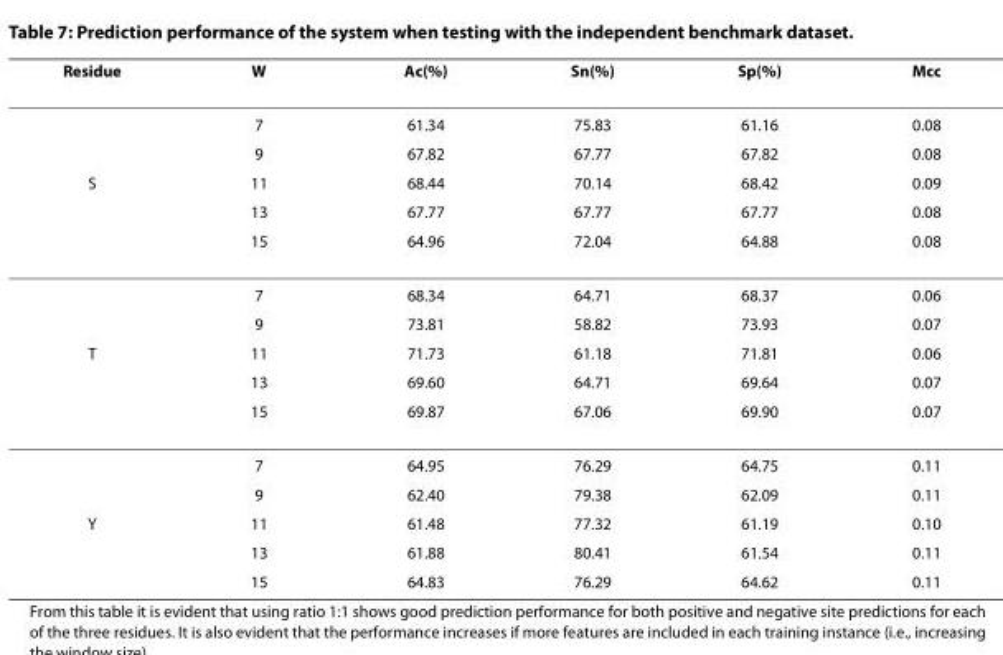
<table><thead><tr><td>Residue</td><td>W</td><td>Ac(%)</td><td>Sn(%)</td><td>Sp(%)</td><td>Mcc</td></tr></thead><tbody><tr><td></td><td>7</td><td>61.34</td><td>75.83</td><td>61.16</td><td>0.08</td></tr><tr><td></td><td>9</td><td>67.82</td><td>67.77</td><td>67.82</td><td>0.08</td></tr><tr><td rowspan="5">S</td><td>11</td><td>68.44</td><td>70.14</td><td>68.42</td><td>0.09</td></tr><tr><td>13</td><td>67.77</td><td>67.77</td><td>67.77</td><td>0.08</td></tr><tr><td>15</td><td>64.96</td><td>72.04</td><td>64.88</td><td>0.08</td></tr><tr><td>7</td><td>68.34</td><td>64.71</td><td>68.37</td><td>0.06</td></tr><tr><td>9</td><td>73.81</td><td>58.82</td><td>73.93</td><td>0.07</td></tr><tr><td rowspan="5">T</td><td>11</td><td>71.73</td><td>61.18</td><td>71.81</td><td>0.06</td></tr><tr><td>13</td><td>69.60</td><td>64.71</td><td>69.64</td><td>0.07</td></tr><tr><td>15</td><td>69.87</td><td>67.06</td><td>69.90</td><td>0.07</td></tr><tr><td>7</td><td>64.95</td><td>76.29</td><td>64.75</td><td>0.11</td></tr><tr><td>9</td><td>62.40</td><td>79.38</td><td>62.09</td><td>0.11</td></tr><tr><td rowspan="3">Y</td><td>11</td><td>61.48</td><td>77.32</td><td>61.19</td><td>0.10</td></tr><tr><td>13</td><td>61.88</td><td>80.41</td><td>61.54</td><td>0.11</td></tr><tr><td>15</td><td>64.83</td><td>76.29</td><td>64.62</td><td>0.11</td></tr></tbody></table>